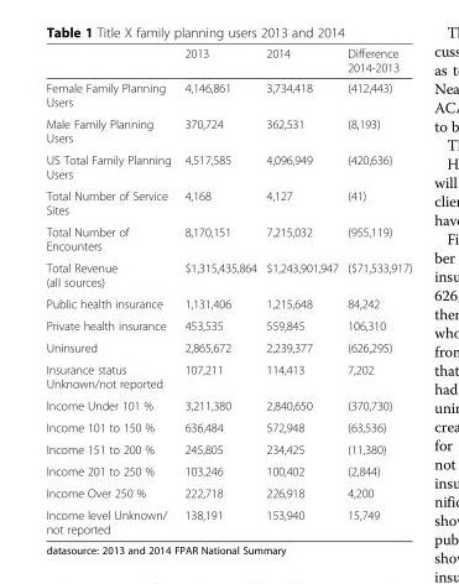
<table><thead><tr><td></td><td>2013</td><td>2014</td><td>Difference 2014-2013</td></tr></thead><tbody><tr><td>Female Family Planning Users</td><td>4,146,861</td><td>3,734,418</td><td>(412,443)</td></tr><tr><td>Male Family Planning Users</td><td>370,724</td><td>362,531</td><td>(8,193)</td></tr><tr><td>US Total Family Planning Users</td><td>4,517,585</td><td>4,096,949</td><td>(420,636)</td></tr><tr><td>Total Number of Service Sites</td><td>4,168</td><td>4,127</td><td>(41)</td></tr><tr><td>Total Number of Encounters</td><td>8,170,151</td><td>7,215,032</td><td>(955,119)</td></tr><tr><td>Total Revenue (all sources)</td><td>$1,315,435,864</td><td>$1,243,901,947</td><td>($71,533,917)</td></tr><tr><td>Public health insurance</td><td>1,131,406</td><td>1,215,648</td><td>84,242</td></tr><tr><td>Private health insurance</td><td>453,535</td><td>559,845</td><td>106,310</td></tr><tr><td>Uninsured</td><td>2,865,672</td><td>2,239,377</td><td>(626,295)</td></tr><tr><td>Insurance status Unknown/not reported</td><td>107,211</td><td>114,413</td><td>7,202</td></tr><tr><td>Income Under 101 %</td><td>3,211,380</td><td>2,840,650</td><td>(370,730)</td></tr><tr><td>Income 101 to 150 %</td><td>636,484</td><td>572,948</td><td>(63,536)</td></tr><tr><td>Income 151 to 200 %</td><td>245,805</td><td>234,425</td><td>(11,380)</td></tr><tr><td>Income 201 to 250 %</td><td>103,246</td><td>100,402</td><td>(2,844)</td></tr><tr><td>Income Over 250 %</td><td>222,718</td><td>226,918</td><td>4,200</td></tr><tr><td>Income level Unknown/ not reported</td><td>138,191</td><td>153,940</td><td>15,749</td></tr></tbody></table>